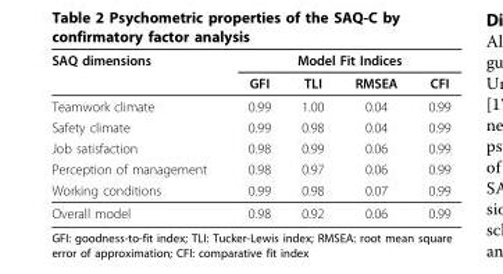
<table><thead><tr><td rowspan="2">SAQ dimensions</td><td colspan="4">Model Fit Indices</td></tr><tr><td>GFI</td><td>TLI</td><td>RMSEA</td><td>CFI</td></tr></thead><tbody><tr><td>Teamwork climate</td><td>0.99</td><td>1.00</td><td>0.04</td><td>0.99</td></tr><tr><td>Safety climate</td><td>0.99</td><td>0.98</td><td>0.04</td><td>0.99</td></tr><tr><td>Job satisfaction</td><td>0.98</td><td>0.99</td><td>0.06</td><td>0.99</td></tr><tr><td>Perception of management</td><td>0.98</td><td>0.97</td><td>0.06</td><td>0.99</td></tr><tr><td>Working conditions</td><td>0.99</td><td>0.98</td><td>0.07</td><td>0.99</td></tr><tr><td>Overall model</td><td>0.98</td><td>0.92</td><td>0.06</td><td>0.99</td></tr></tbody></table>